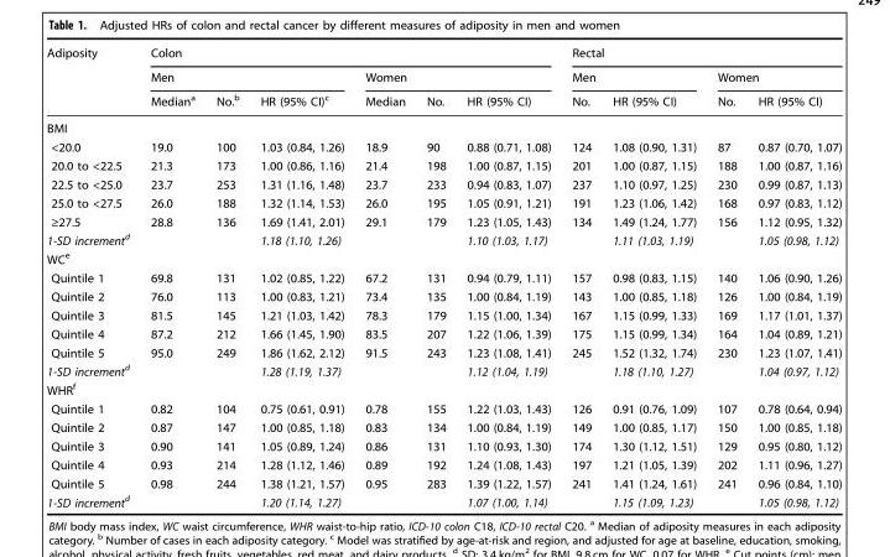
<table><thead><tr><td rowspan="3">Adiposity</td><td colspan="6">Colon</td><td colspan="4">Rectal</td></tr><tr><td colspan="3">Men</td><td colspan="3">Women</td><td colspan="2">Men</td><td colspan="2">Women</td></tr><tr><td>Median<sup>a</sup></td><td>No.<sup>b</sup></td><td>HR (95% CI)<sup>c</sup></td><td>Median</td><td>No.</td><td>HR (95% CI)</td><td>No.</td><td>HR (95% CI)</td><td>No.</td><td>HR (95% CI)</td></tr></thead><tbody><tr><td colspan="11">BMI</td></tr><tr><td>&lt;20.0</td><td>19.0</td><td>100</td><td>1.03 (0.84, 1.26)</td><td>18.9</td><td>90</td><td>0.88 (0.71, 1.08)</td><td>124</td><td>1.08 (0.90, 1.31)</td><td>87</td><td>0.87 (0.70, 1.07)</td></tr><tr><td>20.0 to &lt;22.5</td><td>21.3</td><td>173</td><td>1.00 (0.86, 1.16)</td><td>21.4</td><td>198</td><td>1.00 (0.87, 1.15)</td><td>201</td><td>1.00 (0.87, 1.15)</td><td>188</td><td>1.00 (0.87, 1.16)</td></tr><tr><td>22.5 to &lt;25.0</td><td>23.7</td><td>253</td><td>1.31 (1.16, 1.48)</td><td>23.7</td><td>233</td><td>0.94 (0.83, 1.07)</td><td>237</td><td>1.10 (0.97, 1.25)</td><td>230</td><td>0.99 (0.87, 1.13)</td></tr><tr><td>25.0 to &lt;27.5</td><td>26.0</td><td>188</td><td>1.32 (1.14, 1.53)</td><td>26.0</td><td>195</td><td>1.05 (0.91, 1.21)</td><td>191</td><td>1.23 (1.06, 1.42)</td><td>168</td><td>0.97 (0.83, 1.12)</td></tr><tr><td>≥27.5</td><td>28.8</td><td>136</td><td>1.69 (1.41, 2.01)</td><td>29.1</td><td>179</td><td>1.23 (1.05, 1.43)</td><td>134</td><td>1.49 (1.24, 1.77)</td><td>156</td><td>1.12 (0.95, 1.32)</td></tr><tr><td>1-SD increment<sup>d</sup></td><td></td><td></td><td>1.18 (1.10, 1.26)</td><td></td><td></td><td>1.10 (1.03, 1.17)</td><td></td><td>1.11 (1.03, 1.19)</td><td></td><td>1.05 (0.98, 1.12)</td></tr><tr><td colspan="11">WC<sup>e</sup></td></tr><tr><td>Quintile 1</td><td>69.8</td><td>131</td><td>1.02 (0.85, 1.22)</td><td>67.2</td><td>131</td><td>0.94 (0.79, 1.11)</td><td>157</td><td>0.98 (0.83, 1.15)</td><td>140</td><td>1.06 (0.90, 1.26)</td></tr><tr><td>Quintile 2</td><td>76.0</td><td>113</td><td>1.00 (0.83, 1.21)</td><td>73.4</td><td>135</td><td>1.00 (0.84, 1.19)</td><td>143</td><td>1.00 (0.85, 1.18)</td><td>126</td><td>1.00 (0.84, 1.19)</td></tr><tr><td>Quintile 3</td><td>81.5</td><td>145</td><td>1.21 (1.03, 1.42)</td><td>78.3</td><td>179</td><td>1.15 (1.00, 1.34)</td><td>167</td><td>1.15 (0.99, 1.33)</td><td>169</td><td>1.17 (1.01, 1.37)</td></tr><tr><td>Quintile 4</td><td>87.2</td><td>212</td><td>1.66 (1.45, 1.90)</td><td>83.5</td><td>207</td><td>1.22 (1.06, 1.39)</td><td>175</td><td>1.15 (0.99, 1.34)</td><td>164</td><td>1.04 (0.89, 1.21)</td></tr><tr><td>Quintile 5</td><td>95.0</td><td>249</td><td>1.86 (1.62, 2.12)</td><td>91.5</td><td>243</td><td>1.23 (1.08, 1.41)</td><td>245</td><td>1.52 (1.32, 1.74)</td><td>230</td><td>1.23 (1.07, 1.41)</td></tr><tr><td>1-SD increment<sup>d</sup></td><td></td><td></td><td>1.28 (1.19, 1.37)</td><td></td><td></td><td>1.12 (1.04, 1.19)</td><td></td><td>1.18 (1.10, 1.27)</td><td></td><td>1.04 (0.97, 1.12)</td></tr><tr><td colspan="11">WHR<sup>f</sup></td></tr><tr><td>Quintile 1</td><td>0.82</td><td>104</td><td>0.75 (0.61, 0.91)</td><td>0.78</td><td>155</td><td>1.22 (1.03, 1.43)</td><td>126</td><td>0.91 (0.76, 1.09)</td><td>107</td><td>0.78 (0.64, 0.94)</td></tr><tr><td>Quintile 2</td><td>0.87</td><td>147</td><td>1.00 (0.85, 1.18)</td><td>0.83</td><td>134</td><td>1.00 (0.84, 1.19)</td><td>149</td><td>1.00 (0.85, 1.17)</td><td>150</td><td>1.00 (0.85, 1.18)</td></tr><tr><td>Quintile 3</td><td>0.90</td><td>141</td><td>1.05 (0.89, 1.24)</td><td>0.86</td><td>131</td><td>1.10 (0.93, 1.30)</td><td>174</td><td>1.30 (1.12, 1.51)</td><td>129</td><td>0.95 (0.80, 1.12)</td></tr><tr><td>Quintile 4</td><td>0.93</td><td>214</td><td>1.28 (1.12, 1.46)</td><td>0.89</td><td>192</td><td>1.24 (1.08, 1.43)</td><td>197</td><td>1.21 (1.05, 1.39)</td><td>202</td><td>1.11 (0.96, 1.27)</td></tr><tr><td>Quintile 5</td><td>0.98</td><td>244</td><td>1.38 (1.21, 1.57)</td><td>0.95</td><td>283</td><td>1.39 (1.22, 1.57)</td><td>241</td><td>1.41 (1.24, 1.61)</td><td>241</td><td>0.96 (0.84, 1.10)</td></tr><tr><td>1-SD increment<sup>d</sup></td><td></td><td></td><td>1.20 (1.14, 1.27)</td><td></td><td></td><td>1.07 (1.00, 1.14)</td><td></td><td>1.15 (1.09, 1.23)</td><td></td><td>1.05 (0.98, 1.12)</td></tr></tbody></table>